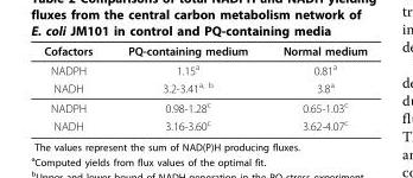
<table><thead><tr><td>Cofactors</td><td>PQ-containing medium</td><td>Normal medium</td></tr></thead><tbody><tr><td>NADPH</td><td>1.15<sup>a</sup></td><td>0.81<sup>a</sup></td></tr><tr><td>NADH</td><td>3.2-3.41<sup>a, b</sup></td><td>3.8<sup>a</sup></td></tr><tr><td>NADPH</td><td>0.98-1.28<sup>c</sup></td><td>0.65-1.03<sup>c</sup></td></tr><tr><td>NADH</td><td>3.16-3.60<sup>c</sup></td><td>3.62-4.07<sup>c</sup></td></tr></tbody></table>